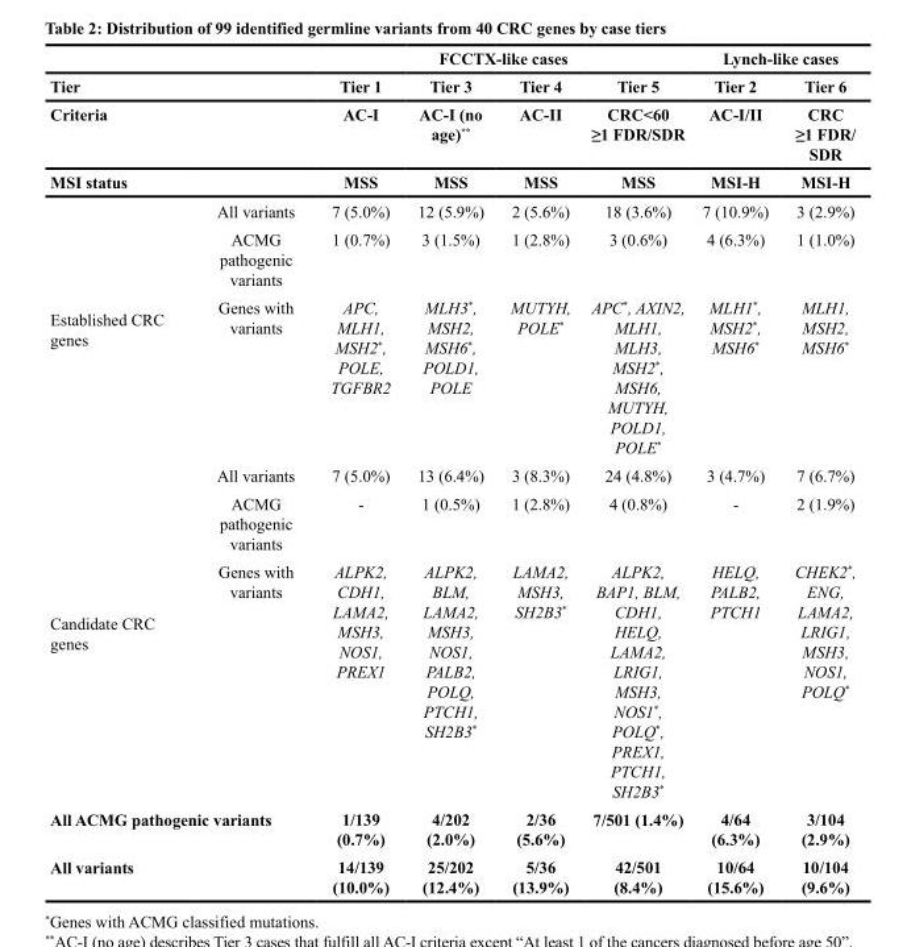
<table><thead><tr><td></td><td></td><td colspan="4">FCCTX-like cases</td><td colspan="2">Lynch-like cases</td></tr><tr><td rowspan="3" colspan="2">Tier Criteria MSI status</td><td rowspan="3">Tier 1 AC-I MSS</td><td rowspan="3">Tier 3 AC-I (no age)** MSS</td><td rowspan="3">Tier 4 AC-II MSS</td><td rowspan="3">Tier 5 CRC&lt;60 ≥1 FDR/SDR MSS</td><td rowspan="3">Tier 2 AC-I/II MSI-H</td><td rowspan="3">Tier 6 CRC ≥1 FDR/ SDR MSI-H</td></tr><tr></tr><tr></tr></thead><tbody><tr><td rowspan="3">Established CRC genes</td><td>All variants</td><td>7 (5.0%)</td><td>12 (5.9%)</td><td>2 (5.6%)</td><td>18 (3.6%)</td><td>7 (10.9%)</td><td>3 (2.9%)</td></tr><tr><td>ACMG pathogenic variants</td><td>1 (0.7%)</td><td>3 (1.5%)</td><td>1 (2.8%)</td><td>3 (0.6%)</td><td>4 (6.3%)</td><td>1 (1.0%)</td></tr><tr><td>Genes with variants</td><td>APC, MLH1, MSH2*, POLE, TGFBR2</td><td>MLH3*, MSH2, MSH6*, POLD1, POLE</td><td>MUTYH, POLE*</td><td>APC*, AXIN2, MLH1, MLH3, MSH2*, MSH6, MUTYH, POLD1, POLE*</td><td>MLH1*, MSH2*, MSH6*</td><td>MLH1, MSH2, MSH6*</td></tr><tr><td rowspan="3">Candidate CRC genes</td><td>All variants</td><td>7 (5.0%)</td><td>13 (6.4%)</td><td>3 (8.3%)</td><td>24 (4.8%)</td><td>3 (4.7%)</td><td>7 (6.7%)</td></tr><tr><td>ACMG pathogenic variants</td><td>-</td><td>1 (0.5%)</td><td>1 (2.8%)</td><td>4 (0.8%)</td><td>-</td><td>2 (1.9%)</td></tr><tr><td>Genes with variants</td><td>ALPK2, CDH1, LAMA2, MSH3, NOS1, PREX1</td><td>ALPK2, BLM, LAMA2, MSH3, NOS1, PALB2, POLQ, PTCH1, SH2B3*</td><td>LAMA2, MSH3, SH2B3*</td><td>ALPK2, BAP1, BLM, CDH1, HELQ, LAMA2, LRIG1, MSH3, NOS1*, POLQ*, PREX1, PTCH1, SH2B3*</td><td>HELQ, PALB2, PTCH1</td><td>CHEK2*, ENG, LAMA2, LRIG1, MSH3, NOS1, POLQ*</td></tr><tr><td colspan="2">All ACMG pathogenic variants</td><td>1/139 (0.7%)</td><td>4/202 (2.0%)</td><td>2/36 (5.6%)</td><td>7/501 (1.4%)</td><td>4/64 (6.3%)</td><td>3/104 (2.9%)</td></tr><tr><td colspan="2">All variants</td><td>14/139 (10.0%)</td><td>25/202 (12.4%)</td><td>5/36 (13.9%)</td><td>42/501 (8.4%)</td><td>10/64 (15.6%)</td><td>10/104 (9.6%)</td></tr></tbody></table>